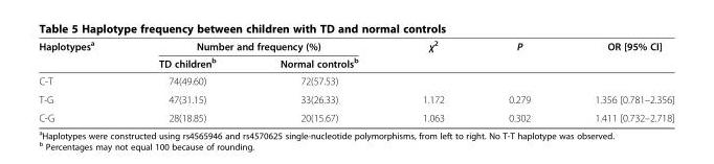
<table><thead><tr><td rowspan="2">Haplotypes<sup>a</sup></td><td colspan="2">Number and frequency (%)</td><td rowspan="2">χ<sup>2</sup></td><td rowspan="2">P</td><td rowspan="2">OR [95% CI]</td></tr><tr><td>TD children<sup>b</sup></td><td>Normal controls<sup>b</sup></td></tr></thead><tbody><tr><td>C-T</td><td>74(49.60)</td><td>72(57.53)</td><td></td><td></td><td></td></tr><tr><td>T-G</td><td>47(31.15)</td><td>33(26.33)</td><td>1.172</td><td>0.279</td><td>1.356 [0.781–2.356]</td></tr><tr><td>C-G</td><td>28(18.85)</td><td>20(15.67)</td><td>1.063</td><td>0.302</td><td>1.411 [0.732–2.718]</td></tr></tbody></table>